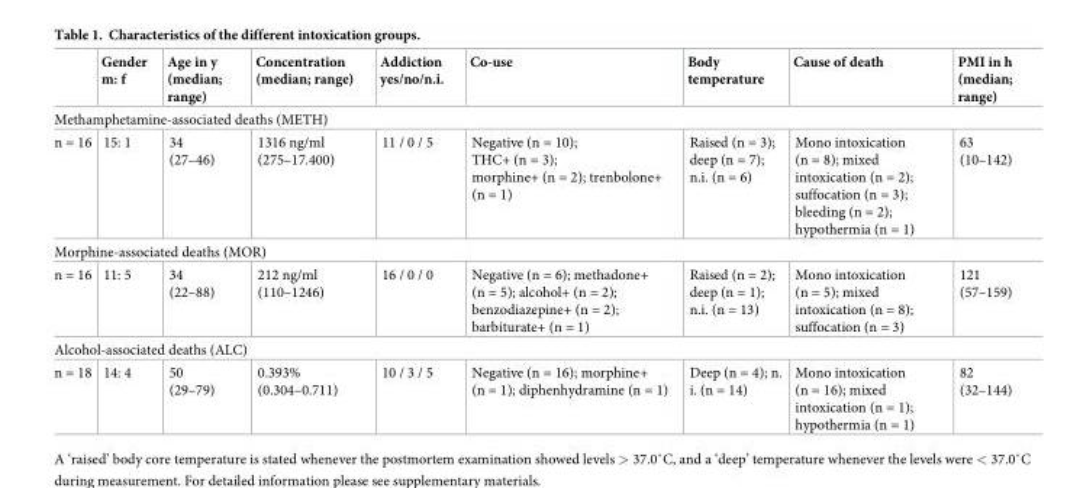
<table><thead><tr><td></td><td>Gender m: f</td><td>Age in y (median; range)</td><td>Concentration (median; range)</td><td>Addiction yes/no/n.i.</td><td>Co-use</td><td>Body temperature</td><td>Cause of death</td><td>PMI in h (median; range)</td></tr></thead><tbody><tr><td colspan="9">Methamphetamine-associated deaths (METH)</td></tr><tr><td>n = 16</td><td>15: 1</td><td>34 (27–46)</td><td>1316 ng/ml (275–17.400)</td><td>11 / 0 / 5</td><td>Negative (n = 10); THC+ (n = 3); morphine+ (n = 2); trenbolone+ (n = 1)</td><td>Raised (n = 3); deep (n = 7); n.i. (n = 6)</td><td>Mono intoxication (n = 8); mixed intoxication (n = 2); suffocation (n = 3); bleeding (n = 2); hypothermia (n = 1)</td><td>63 (10–142)</td></tr><tr><td colspan="9">Morphine-associated deaths (MOR)</td></tr><tr><td>n = 16</td><td>11: 5</td><td>34 (22–88)</td><td>212 ng/ml (110–1246)</td><td>16 / 0 / 0</td><td>Negative (n = 6); methadone+ (n = 5); alcohol+ (n = 2); benzodiazepine+ (n = 2); barbiturate+ (n = 1)</td><td>Raised (n = 2); deep (n = 1); n.i. (n = 13)</td><td>Mono intoxication (n = 5); mixed intoxication (n = 8); suffocation (n = 3)</td><td>121 (57–159)</td></tr><tr><td colspan="9">Alcohol-associated deaths (ALC)</td></tr><tr><td>n = 18</td><td>14: 4</td><td>50 (29–79)</td><td>0.393% (0.304–0.711)</td><td>10 / 3 / 5</td><td>Negative (n = 16); morphine+ (n = 1); diphenhydramine (n = 1)</td><td>Deep (n = 4); n. i. (n = 14)</td><td>Mono intoxication (n = 16); mixed intoxication (n = 1); hypothermia (n = 1)</td><td>82 (32–144)</td></tr></tbody></table>